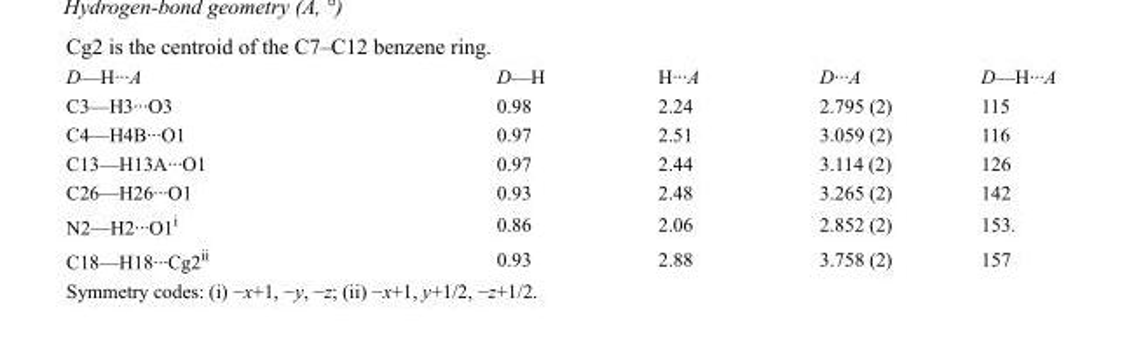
<table><tbody><tr><td>D—H···A</td><td>D—H</td><td>H···A</td><td>D···A</td><td>D—H···A</td></tr><tr><td>C3—H3···O3</td><td>0.98</td><td>2.24</td><td>2.795 (2)</td><td>115</td></tr><tr><td>C4—H4B···O1</td><td>0.97</td><td>2.51</td><td>3.059 (2)</td><td>116</td></tr><tr><td>C13—H13A···O1</td><td>0.97</td><td>2.44</td><td>3.114 (2)</td><td>126</td></tr><tr><td>C26—H26···O1</td><td>0.93</td><td>2.48</td><td>3.265 (2)</td><td>142</td></tr><tr><td>N2—H2···O1<sup>i</sup></td><td>0.86</td><td>2.06</td><td>2.852 (2)</td><td>153.</td></tr><tr><td>C18—H18···Cg2<sup>ii</sup></td><td>0.93</td><td>2.88</td><td>3.758 (2)</td><td>157</td></tr></tbody></table>